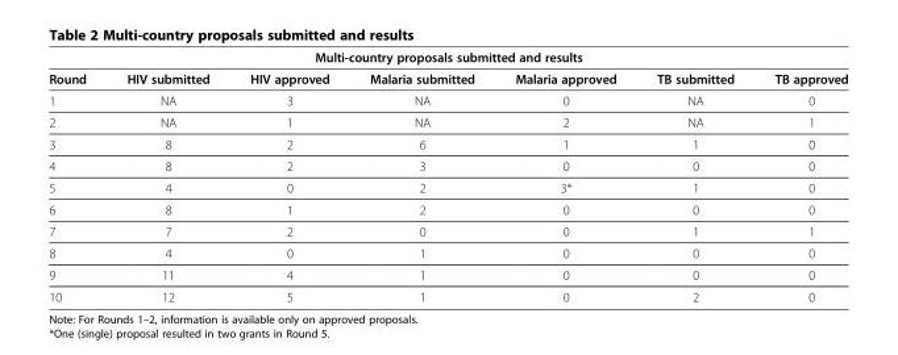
<table><thead><tr><td colspan="7">Multi-country proposals submitted and results</td></tr><tr><td>Round</td><td>HIV submitted</td><td>HIV approved</td><td>Malaria submitted</td><td>Malaria approved</td><td>TB submitted</td><td>TB approved</td></tr></thead><tbody><tr><td>1</td><td>NA</td><td>3</td><td>NA</td><td>0</td><td>NA</td><td>0</td></tr><tr><td>2</td><td>NA</td><td>1</td><td>NA</td><td>2</td><td>NA</td><td>1</td></tr><tr><td>3</td><td>8</td><td>2</td><td>6</td><td>1</td><td>1</td><td>0</td></tr><tr><td>4</td><td>8</td><td>2</td><td>3</td><td>0</td><td>0</td><td>0</td></tr><tr><td>5</td><td>4</td><td>0</td><td>2</td><td>3*</td><td>1</td><td>0</td></tr><tr><td>6</td><td>8</td><td>1</td><td>2</td><td>0</td><td>0</td><td>0</td></tr><tr><td>7</td><td>7</td><td>2</td><td>0</td><td>0</td><td>1</td><td>1</td></tr><tr><td>8</td><td>4</td><td>0</td><td>1</td><td>0</td><td>0</td><td>0</td></tr><tr><td>9</td><td>11</td><td>4</td><td>1</td><td>0</td><td>0</td><td>0</td></tr><tr><td>10</td><td>12</td><td>5</td><td>1</td><td>0</td><td>2</td><td>0</td></tr></tbody></table>